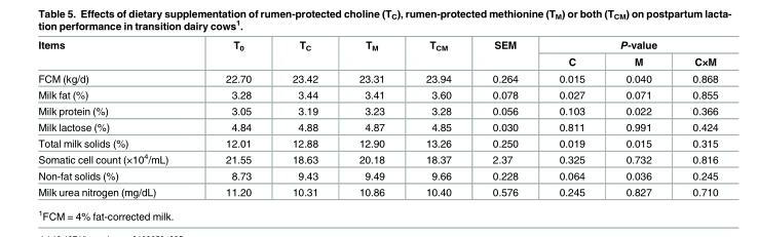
<table><thead><tr><td rowspan="2">Items</td><td rowspan="2">T<sub>0</sub></td><td rowspan="2">T<sub>C</sub></td><td rowspan="2">T<sub>M</sub></td><td rowspan="2">T<sub>CM</sub></td><td rowspan="2">SEM</td><td colspan="3">P-value</td></tr><tr><td>C</td><td>M</td><td>C×M</td></tr></thead><tbody><tr><td>FCM (kg/d)</td><td>22.70</td><td>23.42</td><td>23.31</td><td>23.94</td><td>0.264</td><td>0.015</td><td>0.040</td><td>0.868</td></tr><tr><td>Milk fat (%)</td><td>3.28</td><td>3.44</td><td>3.41</td><td>3.60</td><td>0.078</td><td>0.027</td><td>0.071</td><td>0.855</td></tr><tr><td>Milk protein (%)</td><td>3.05</td><td>3.19</td><td>3.23</td><td>3.28</td><td>0.056</td><td>0.103</td><td>0.022</td><td>0.366</td></tr><tr><td>Milk lactose (%)</td><td>4.84</td><td>4.88</td><td>4.87</td><td>4.85</td><td>0.030</td><td>0.811</td><td>0.991</td><td>0.424</td></tr><tr><td>Total milk solids (%)</td><td>12.01</td><td>12.88</td><td>12.90</td><td>13.26</td><td>0.250</td><td>0.019</td><td>0.015</td><td>0.315</td></tr><tr><td>Somatic cell count (×10<sup>4</sup>/mL)</td><td>21.55</td><td>18.63</td><td>20.18</td><td>18.37</td><td>2.37</td><td>0.325</td><td>0.732</td><td>0.816</td></tr><tr><td>Non-fat solids (%)</td><td>8.73</td><td>9.43</td><td>9.49</td><td>9.66</td><td>0.228</td><td>0.064</td><td>0.036</td><td>0.245</td></tr><tr><td>Milk urea nitrogen (mg/dL)</td><td>11.20</td><td>10.31</td><td>10.86</td><td>10.40</td><td>0.576</td><td>0.245</td><td>0.827</td><td>0.710</td></tr></tbody></table>